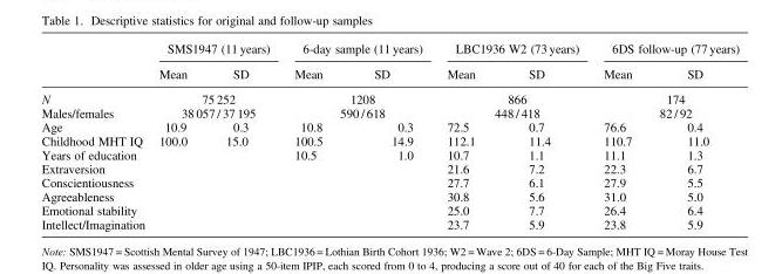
<table><thead><tr><td rowspan="2"></td><td colspan="2">SMS1947 (11 years)</td><td colspan="2">6-day sample (11 years)</td><td colspan="2">LBC1936 W2 (73 years)</td><td colspan="2">6DS follow-up (77 years)</td></tr><tr><td>Mean</td><td>SD</td><td>Mean</td><td>SD</td><td>Mean</td><td>SD</td><td>Mean</td><td>SD</td></tr></thead><tbody><tr><td>N</td><td colspan="2">75 252</td><td colspan="2">1208</td><td colspan="2">866</td><td colspan="2">174</td></tr><tr><td>Males/females</td><td colspan="2">38 057 / 37 195</td><td colspan="2">590 / 618</td><td colspan="2">448 / 418</td><td colspan="2">82 / 92</td></tr><tr><td>Age</td><td>10.9</td><td>0.3</td><td>10.8</td><td>0.3</td><td>72.5</td><td>0.7</td><td>76.6</td><td>0.4</td></tr><tr><td>Childhood MHT IQ</td><td>100.0</td><td>15.0</td><td>100.5</td><td>14.9</td><td>112.1</td><td>11.4</td><td>110.7</td><td>11.0</td></tr><tr><td colspan="3">Years of education</td><td>10.5</td><td>1.0</td><td>10.7</td><td>1.1</td><td>11.1</td><td>1.3</td></tr><tr><td colspan="5">Extraversion</td><td>21.6</td><td>7.2</td><td>22.3</td><td>6.7</td></tr><tr><td colspan="5">Conscientiousness</td><td>27.7</td><td>6.1</td><td>27.9</td><td>5.5</td></tr><tr><td colspan="5">Agreeableness</td><td>30.8</td><td>5.6</td><td>31.0</td><td>5.0</td></tr><tr><td colspan="5">Emotional stability</td><td>25.0</td><td>7.7</td><td>26.4</td><td>6.4</td></tr><tr><td colspan="5">Intellect/Imagination</td><td>23.7</td><td>5.9</td><td>23.8</td><td>5.9</td></tr></tbody></table>